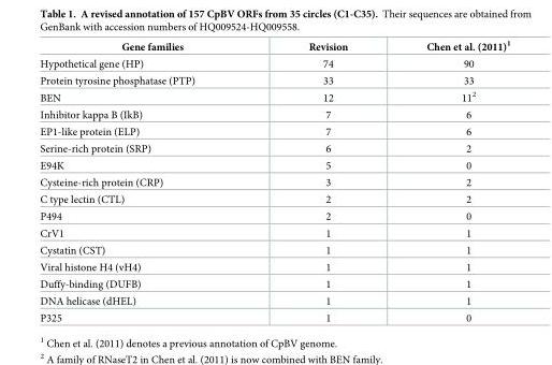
<table><thead><tr><td>Gene families</td><td>Revision</td><td>Chen et al. (2011)<sup>1</sup></td></tr></thead><tbody><tr><td>Hypothetical gene (HP)</td><td>74</td><td>90</td></tr><tr><td>Protein tyrosine phosphatase (PTP)</td><td>33</td><td>33</td></tr><tr><td>BEN</td><td>12</td><td>11<sup>2</sup></td></tr><tr><td>Inhibitor kappa B (IkB)</td><td>7</td><td>6</td></tr><tr><td>EP1-like protein (ELP)</td><td>7</td><td>6</td></tr><tr><td>Serine-rich protein (SRP)</td><td>6</td><td>2</td></tr><tr><td>E94K</td><td>5</td><td>0</td></tr><tr><td>Cysteine-rich protein (CRP)</td><td>3</td><td>2</td></tr><tr><td>C type lectin (CTL)</td><td>2</td><td>2</td></tr><tr><td>P494</td><td>2</td><td>0</td></tr><tr><td>CrV1</td><td>1</td><td>1</td></tr><tr><td>Cystatin (CST)</td><td>1</td><td>1</td></tr><tr><td>Viral histone H4 (vH4)</td><td>1</td><td>1</td></tr><tr><td>Duffy-binding (DUFB)</td><td>1</td><td>1</td></tr><tr><td>DNA helicase (dHEL)</td><td>1</td><td>1</td></tr><tr><td>P325</td><td>1</td><td>0</td></tr></tbody></table>